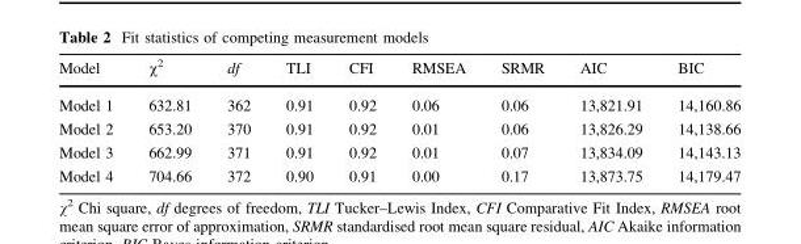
<table><thead><tr><td>Model</td><td>χ<sup>2</sup></td><td>df</td><td>TLI</td><td>CFI</td><td>RMSEA</td><td>SRMR</td><td>AIC</td><td>BIC</td></tr></thead><tbody><tr><td>Model 1</td><td>632.81</td><td>362</td><td>0.91</td><td>0.92</td><td>0.06</td><td>0.06</td><td>13,821.91</td><td>14,160.86</td></tr><tr><td>Model 2</td><td>653.20</td><td>370</td><td>0.91</td><td>0.92</td><td>0.01</td><td>0.06</td><td>13,826.29</td><td>14,138.66</td></tr><tr><td>Model 3</td><td>662.99</td><td>371</td><td>0.91</td><td>0.92</td><td>0.01</td><td>0.07</td><td>13,834.09</td><td>14,143.13</td></tr><tr><td>Model 4</td><td>704.66</td><td>372</td><td>0.90</td><td>0.91</td><td>0.00</td><td>0.17</td><td>13,873.75</td><td>14,179.47</td></tr></tbody></table>